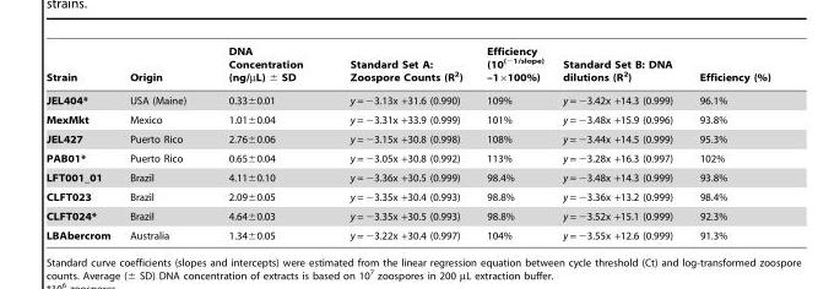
<table><thead><tr><td>Strain</td><td>Origin</td><td>DNA Concentration (ng/µL) ± SD</td><td>Standard Set A: Zoospore Counts (R<sup>2</sup>)</td><td>Efficiency (10<sup>(−1/slope)</sup> –1×100%)</td><td>Standard Set B: DNA dilutions (R<sup>2</sup>)</td><td>Efficiency (%)</td></tr></thead><tbody><tr><td>JEL404*</td><td>USA (Maine)</td><td>0.33±0.01</td><td>y = −3.13x +31.6 (0.990)</td><td>109%</td><td>y = −3.42x +14.3 (0.999)</td><td>96.1%</td></tr><tr><td>MexMkt</td><td>Mexico</td><td>1.01±0.04</td><td>y = −3.31x +33.9 (0.999)</td><td>101%</td><td>y = −3.48x +15.9 (0.996)</td><td>93.8%</td></tr><tr><td>JEL427</td><td>Puerto Rico</td><td>2.76±0.06</td><td>y = −3.15x +30.8 (0.998)</td><td>108%</td><td>y = −3.44x +14.5 (0.999)</td><td>95.3%</td></tr><tr><td>PAB01*</td><td>Puerto Rico</td><td>0.65±0.04</td><td>y = −3.05x +30.8 (0.992)</td><td>113%</td><td>y = −3.28x +16.3 (0.997)</td><td>102%</td></tr><tr><td>LFT001_01</td><td>Brazil</td><td>4.11±0.10</td><td>y = −3.36x +30.5 (0.999)</td><td>98.4%</td><td>y = −3.48x +14.3 (0.999)</td><td>93.8%</td></tr><tr><td>CLFT023</td><td>Brazil</td><td>2.09±0.05</td><td>y = −3.35x +30.4 (0.993)</td><td>98.8%</td><td>y = −3.36x +13.2 (0.999)</td><td>98.4%</td></tr><tr><td>CLFT024*</td><td>Brazil</td><td>4.64±0.03</td><td>y = −3.35x +30.5 (0.993)</td><td>98.8%</td><td>y = −3.52x +15.1 (0.999)</td><td>92.3%</td></tr><tr><td>LBAbercrom</td><td>Australia</td><td>1.34±0.05</td><td>y = −3.22x +30.4 (0.997)</td><td>104%</td><td>y = −3.55x +12.6 (0.999)</td><td>91.3%</td></tr></tbody></table>